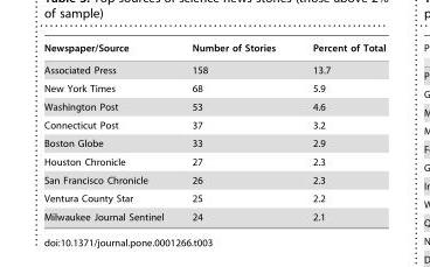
<table><thead><tr><td>Newspaper/Source</td><td>Number of Stories</td><td>Percent of Total</td></tr></thead><tbody><tr><td>Associated Press</td><td>158</td><td>13.7</td></tr><tr><td>New York Times</td><td>68</td><td>5.9</td></tr><tr><td>Washington Post</td><td>53</td><td>4.6</td></tr><tr><td>Connecticut Post</td><td>37</td><td>3.2</td></tr><tr><td>Boston Globe</td><td>33</td><td>2.9</td></tr><tr><td>Houston Chronicle</td><td>27</td><td>2.3</td></tr><tr><td>San Francisco Chronicle</td><td>26</td><td>2.3</td></tr><tr><td>Ventura County Star</td><td>25</td><td>2.2</td></tr><tr><td>Milwaukee Journal Sentinel</td><td>24</td><td>2.1</td></tr></tbody></table>